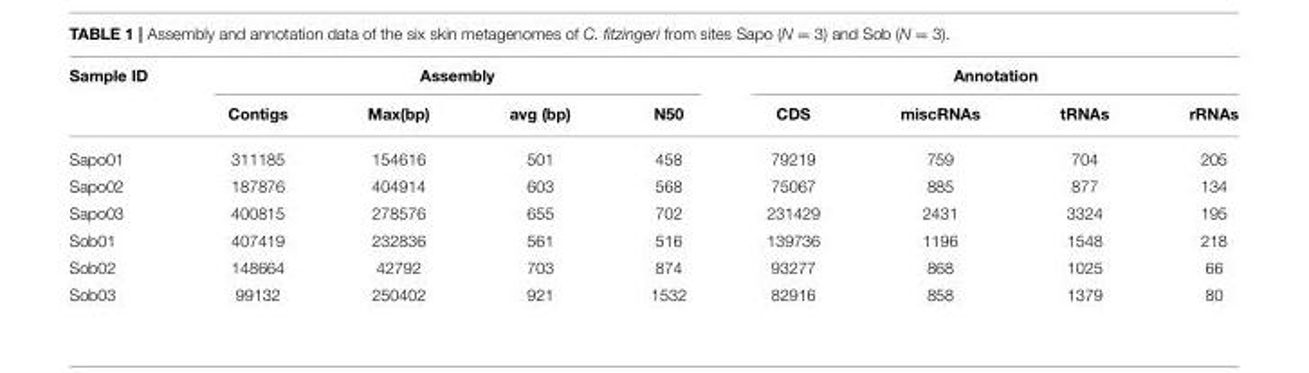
<table><thead><tr><td rowspan="2">Sample ID</td><td colspan="4">Assembly</td><td colspan="4">Annotation</td></tr><tr><td>Contigs</td><td>Max(bp)</td><td>avg (bp)</td><td>N50</td><td>CDS</td><td>miscRNAs</td><td>tRNAs</td><td>rRNAs</td></tr></thead><tbody><tr><td>Sapo01</td><td>311185</td><td>154616</td><td>501</td><td>458</td><td>79219</td><td>759</td><td>704</td><td>205</td></tr><tr><td>Sapo02</td><td>187876</td><td>404914</td><td>603</td><td>568</td><td>75067</td><td>885</td><td>877</td><td>134</td></tr><tr><td>Sapo03</td><td>400815</td><td>278576</td><td>655</td><td>702</td><td>231429</td><td>2431</td><td>3324</td><td>195</td></tr><tr><td>Sob01</td><td>407419</td><td>232836</td><td>561</td><td>516</td><td>139736</td><td>1196</td><td>1548</td><td>218</td></tr><tr><td>Sob02</td><td>148664</td><td>42792</td><td>703</td><td>874</td><td>93277</td><td>868</td><td>1025</td><td>66</td></tr><tr><td>Sob03</td><td>99132</td><td>250402</td><td>921</td><td>1532</td><td>82916</td><td>858</td><td>1379</td><td>80</td></tr></tbody></table>